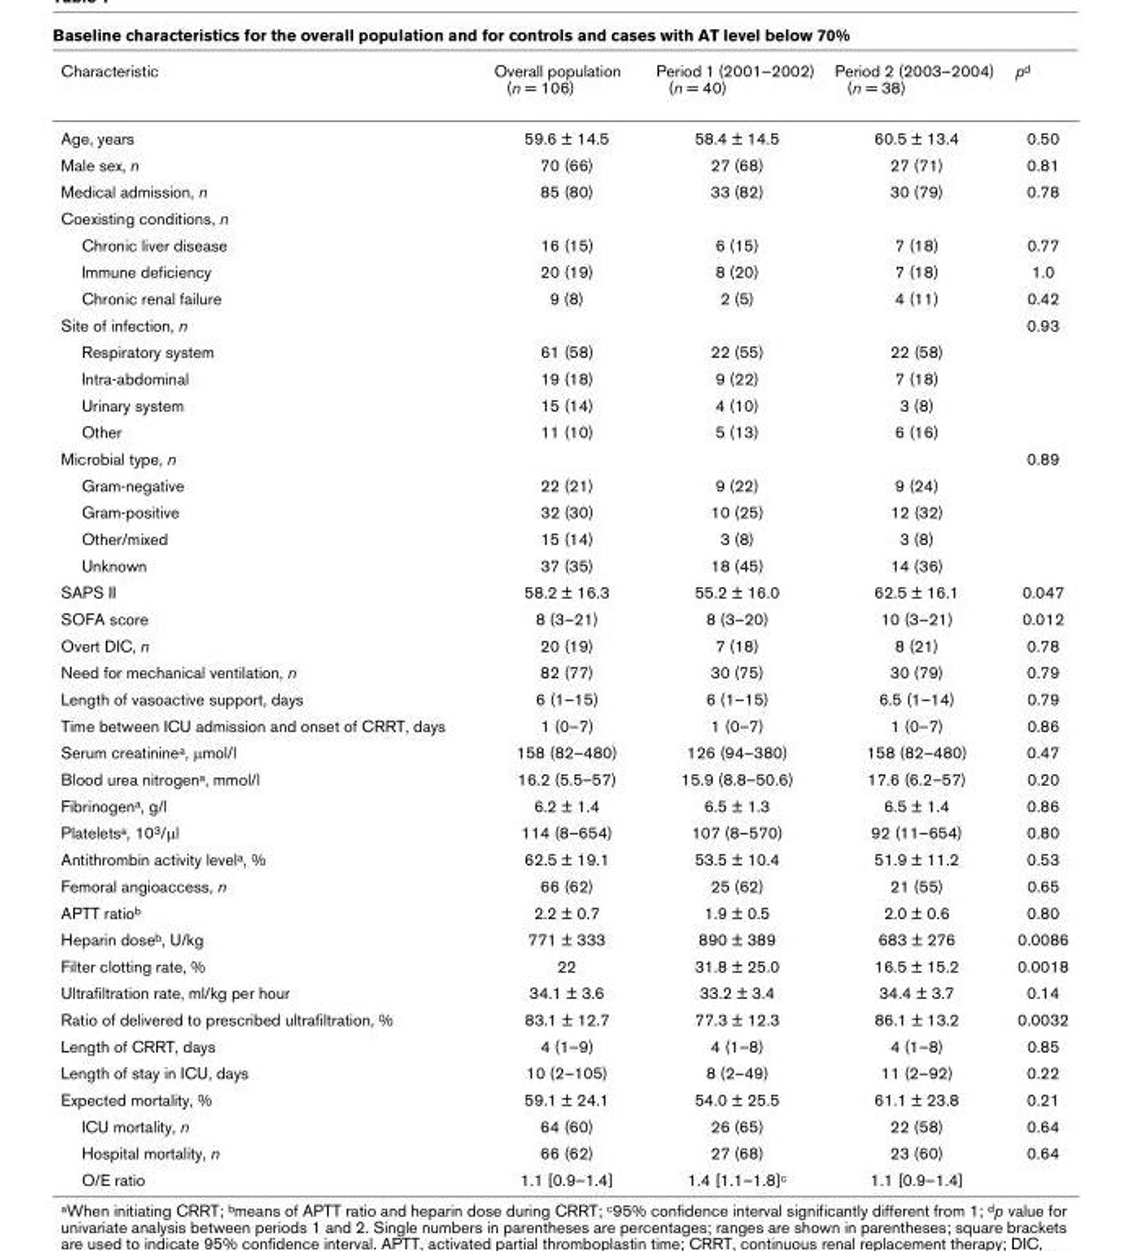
<table><thead><tr><td>Characteristic</td><td>Overall population (n = 106)</td><td>Period 1 (2001–2002) (n = 40)</td><td>Period 2 (2003–2004) (n = 38)</td><td>pd</td></tr></thead><tbody><tr><td>Age, years</td><td>59.6 ± 14.5</td><td>58.4 ± 14.5</td><td>60.5 ± 13.4</td><td>0.50</td></tr><tr><td>Male sex, n</td><td>70 (66)</td><td>27 (68)</td><td>27 (71)</td><td>0.81</td></tr><tr><td>Medical admission, n</td><td>85 (80)</td><td>33 (82)</td><td>30 (79)</td><td>0.78</td></tr><tr><td colspan="5">Coexisting conditions, n</td></tr><tr><td>Chronic liver disease</td><td>16 (15)</td><td>6 (15)</td><td>7 (18)</td><td>0.77</td></tr><tr><td>Immune deficiency</td><td>20 (19)</td><td>8 (20)</td><td>7 (18)</td><td>1.0</td></tr><tr><td>Chronic renal failure</td><td>9 (8)</td><td>2 (5)</td><td>4 (11)</td><td>0.42</td></tr><tr><td>Site of infection, n</td><td></td><td></td><td></td><td>0.93</td></tr><tr><td>Respiratory system</td><td>61 (58)</td><td>22 (55)</td><td>22 (58)</td><td></td></tr><tr><td>Intra-abdominal</td><td>19 (18)</td><td>9 (22)</td><td>7 (18)</td><td></td></tr><tr><td>Urinary system</td><td>15 (14)</td><td>4 (10)</td><td>3 (8)</td><td></td></tr><tr><td>Other</td><td>11 (10)</td><td>5 (13)</td><td>6 (16)</td><td></td></tr><tr><td>Microbial type, n</td><td></td><td></td><td></td><td>0.89</td></tr><tr><td>Gram-negative</td><td>22 (21)</td><td>9 (22)</td><td>9 (24)</td><td></td></tr><tr><td>Gram-positive</td><td>32 (30)</td><td>10 (25)</td><td>12 (32)</td><td></td></tr><tr><td>Other/mixed</td><td>15 (14)</td><td>3 (8)</td><td>3 (8)</td><td></td></tr><tr><td>Unknown</td><td>37 (35)</td><td>18 (45)</td><td>14 (36)</td><td></td></tr><tr><td>SAPS II</td><td>58.2 ± 16.3</td><td>55.2 ± 16.0</td><td>62.5 ± 16.1</td><td>0.047</td></tr><tr><td>SOFA score</td><td>8 (3–21)</td><td>8 (3–20)</td><td>10 (3–21)</td><td>0.012</td></tr><tr><td>Overt DIC, n</td><td>20 (19)</td><td>7 (18)</td><td>8 (21)</td><td>0.78</td></tr><tr><td>Need for mechanical ventilation, n</td><td>82 (77)</td><td>30 (75)</td><td>30 (79)</td><td>0.79</td></tr><tr><td>Length of vasoactive support, days</td><td>6 (1–15)</td><td>6 (1–15)</td><td>6.5 (1–14)</td><td>0.79</td></tr><tr><td>Time between ICU admission and onset of CRRT, days</td><td>1 (0–7)</td><td>1 (0–7)</td><td>1 (0–7)</td><td>0.86</td></tr><tr><td>Serum creatininea, µmol/l</td><td>158 (82–480)</td><td>126 (94–380)</td><td>158 (82–480)</td><td>0.47</td></tr><tr><td>Blood urea nitrogena, mmol/l</td><td>16.2 (5.5–57)</td><td>15.9 (8.8–50.6)</td><td>17.6 (6.2–57)</td><td>0.20</td></tr><tr><td>Fibrinogena, g/l</td><td>6.2 ± 1.4</td><td>6.5 ± 1.3</td><td>6.5 ± 1.4</td><td>0.86</td></tr><tr><td>Plateletsa, 103/µl</td><td>114 (8–654)</td><td>107 (8–570)</td><td>92 (11–654)</td><td>0.80</td></tr><tr><td>Antithrombin activity levela, %</td><td>62.5 ± 19.1</td><td>53.5 ± 10.4</td><td>51.9 ± 11.2</td><td>0.53</td></tr><tr><td>Femoral angioaccess, n</td><td>66 (62)</td><td>25 (62)</td><td>21 (55)</td><td>0.65</td></tr><tr><td>APTT ratiob</td><td>2.2 ± 0.7</td><td>1.9 ± 0.5</td><td>2.0 ± 0.6</td><td>0.80</td></tr><tr><td>Heparin doseb, U/kg</td><td>771 ± 333</td><td>890 ± 389</td><td>683 ± 276</td><td>0.0086</td></tr><tr><td>Filter clotting rate, %</td><td>22</td><td>31.8 ± 25.0</td><td>16.5 ± 15.2</td><td>0.0018</td></tr><tr><td>Ultrafiltration rate, ml/kg per hour</td><td>34.1 ± 3.6</td><td>33.2 ± 3.4</td><td>34.4 ± 3.7</td><td>0.14</td></tr><tr><td>Ratio of delivered to prescribed ultrafiltration, %</td><td>83.1 ± 12.7</td><td>77.3 ± 12.3</td><td>86.1 ± 13.2</td><td>0.0032</td></tr><tr><td>Length of CRRT, days</td><td>4 (1–9)</td><td>4 (1–8)</td><td>4 (1–8)</td><td>0.85</td></tr><tr><td>Length of stay in ICU, days</td><td>10 (2–105)</td><td>8 (2–49)</td><td>11 (2–92)</td><td>0.22</td></tr><tr><td>Expected mortality, %</td><td>59.1 ± 24.1</td><td>54.0 ± 25.5</td><td>61.1 ± 23.8</td><td>0.21</td></tr><tr><td>ICU mortality, n</td><td>64 (60)</td><td>26 (65)</td><td>22 (58)</td><td>0.64</td></tr><tr><td>Hospital mortality, n</td><td>66 (62)</td><td>27 (68)</td><td>23 (60)</td><td>0.64</td></tr><tr><td>O/E ratio</td><td>1.1 [0.9–1.4]</td><td>1.4 [1.1–1.8]c</td><td>1.1 [0.9–1.4]</td><td></td></tr></tbody></table>